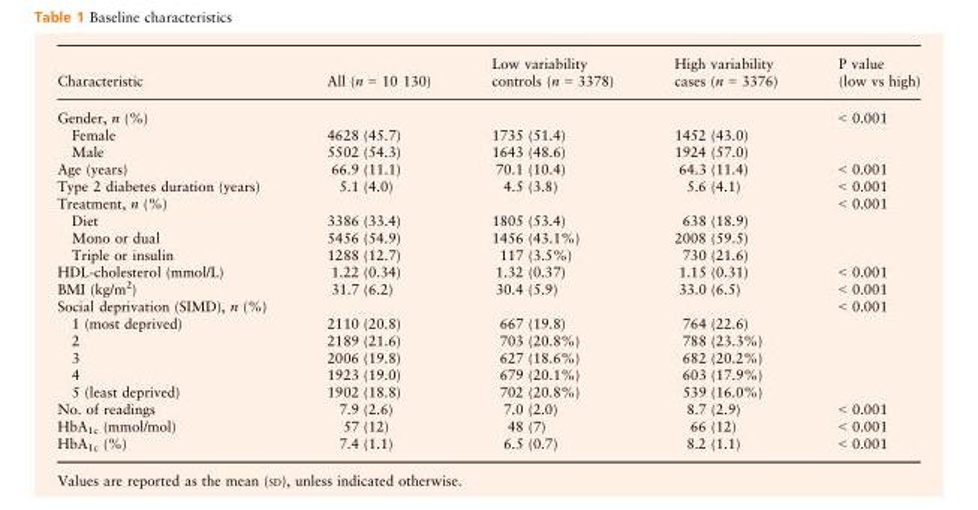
<table><thead><tr><td>Characteristic</td><td>All (n = 10 130)</td><td>Low variability controls (n = 3378)</td><td>High variability cases (n = 3376)</td><td>P value (low vs high)</td></tr></thead><tbody><tr><td>Gender, n (%)</td><td></td><td></td><td></td><td>&lt; 0.001</td></tr><tr><td>Female</td><td>4628 (45.7)</td><td>1735 (51.4)</td><td>1452 (43.0)</td><td></td></tr><tr><td>Male</td><td>5502 (54.3)</td><td>1643 (48.6)</td><td>1924 (57.0)</td><td></td></tr><tr><td>Age (years)</td><td>66.9 (11.1)</td><td>70.1 (10.4)</td><td>64.3 (11.4)</td><td>&lt; 0.001</td></tr><tr><td>Type 2 diabetes duration (years)</td><td>5.1 (4.0)</td><td>4.5 (3.8)</td><td>5.6 (4.1)</td><td>&lt; 0.001</td></tr><tr><td>Treatment, n (%)</td><td></td><td></td><td></td><td>&lt; 0.001</td></tr><tr><td>Diet</td><td>3386 (33.4)</td><td>1805 (53.4)</td><td>638 (18.9)</td><td></td></tr><tr><td>Mono or dual</td><td>5456 (54.9)</td><td>1456 (43.1%)</td><td>2008 (59.5)</td><td></td></tr><tr><td>Triple or insulin</td><td>1288 (12.7)</td><td>117 (3.5%)</td><td>730 (21.6)</td><td></td></tr><tr><td>HDL-cholesterol (mmol/L)</td><td>1.22 (0.34)</td><td>1.32 (0.37)</td><td>1.15 (0.31)</td><td>&lt; 0.001</td></tr><tr><td>BMI (kg/m<sup>2</sup>)</td><td>31.7 (6.2)</td><td>30.4 (5.9)</td><td>33.0 (6.5)</td><td>&lt; 0.001</td></tr><tr><td>Social deprivation (SIMD), n (%)</td><td></td><td></td><td></td><td>&lt; 0.001</td></tr><tr><td>1 (most deprived)</td><td>2110 (20.8)</td><td>667 (19.8)</td><td>764 (22.6)</td><td></td></tr><tr><td>2</td><td>2189 (21.6)</td><td>703 (20.8%)</td><td>788 (23.3%)</td><td></td></tr><tr><td>3</td><td>2006 (19.8)</td><td>627 (18.6%)</td><td>682 (20.2%)</td><td></td></tr><tr><td>4</td><td>1923 (19.0)</td><td>679 (20.1%)</td><td>603 (17.9%)</td><td></td></tr><tr><td>5 (least deprived)</td><td>1902 (18.8)</td><td>702 (20.8%)</td><td>539 (16.0%)</td><td></td></tr><tr><td>No. of readings</td><td>7.9 (2.6)</td><td>7.0 (2.0)</td><td>8.7 (2.9)</td><td>&lt; 0.001</td></tr><tr><td>HbA<sub>1c</sub> (mmol/mol)</td><td>57 (12)</td><td>48 (7)</td><td>66 (12)</td><td>&lt; 0.001</td></tr><tr><td>HbA<sub>1c</sub> (%)</td><td>7.4 (1.1)</td><td>6.5 (0.7)</td><td>8.2 (1.1)</td><td>&lt; 0.001</td></tr></tbody></table>